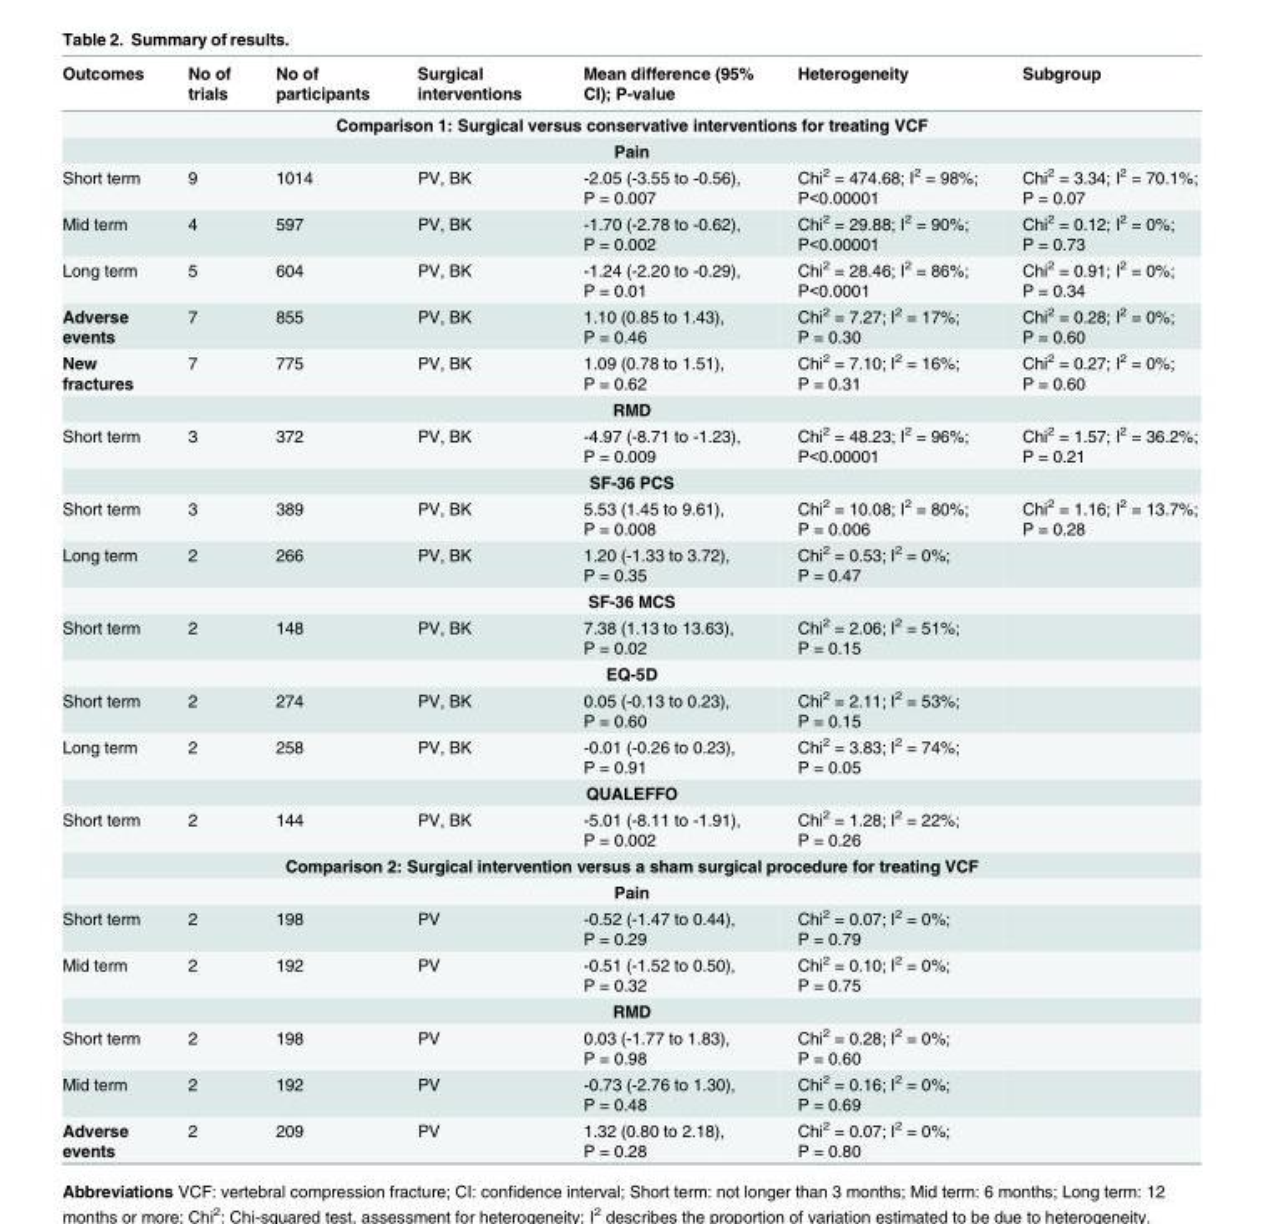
<table><thead><tr><td>Outcomes</td><td>No of trials</td><td>No of participants</td><td>Surgical interventions</td><td>Mean difference (95% CI); P-value</td><td>Heterogeneity</td><td>Subgroup</td></tr></thead><tbody><tr><td colspan="7">Comparison 1: Surgical versus conservative interventions for treating VCF</td></tr><tr><td colspan="7">Pain</td></tr><tr><td>Short term</td><td>9</td><td>1014</td><td>PV, BK</td><td>-2.05 (-3.55 to -0.56), P = 0.007</td><td>Chi<sup>2</sup> = 474.68; I<sup>2</sup> = 98%; P&lt;0.00001</td><td>Chi<sup>2</sup> = 3.34; I<sup>2</sup> = 70.1%; P = 0.07</td></tr><tr><td>Mid term</td><td>4</td><td>597</td><td>PV, BK</td><td>-1.70 (-2.78 to -0.62), P = 0.002</td><td>Chi<sup>2</sup> = 29.88; I<sup>2</sup> = 90%; P&lt;0.00001</td><td>Chi<sup>2</sup> = 0.12; I<sup>2</sup> = 0%; P = 0.73</td></tr><tr><td>Long term</td><td>5</td><td>604</td><td>PV, BK</td><td>-1.24 (-2.20 to -0.29), P = 0.01</td><td>Chi<sup>2</sup> = 28.46; I<sup>2</sup> = 86%; P&lt;0.0001</td><td>Chi<sup>2</sup> = 0.91; I<sup>2</sup> = 0%; P = 0.34</td></tr><tr><td>Adverse events</td><td>7</td><td>855</td><td>PV, BK</td><td>1.10 (0.85 to 1.43), P = 0.46</td><td>Chi<sup>2</sup> = 7.27; I<sup>2</sup> = 17%; P = 0.30</td><td>Chi<sup>2</sup> = 0.28; I<sup>2</sup> = 0%; P = 0.60</td></tr><tr><td>New fractures</td><td>7</td><td>775</td><td>PV, BK</td><td>1.09 (0.78 to 1.51), P = 0.62</td><td>Chi<sup>2</sup> = 7.10; I<sup>2</sup> = 16%; P = 0.31</td><td>Chi<sup>2</sup> = 0.27; I<sup>2</sup> = 0%; P = 0.60</td></tr><tr><td colspan="7">RMD</td></tr><tr><td>Short term</td><td>3</td><td>372</td><td>PV, BK</td><td>-4.97 (-8.71 to -1.23), P = 0.009</td><td>Chi<sup>2</sup> = 48.23; I<sup>2</sup> = 96%; P&lt;0.00001</td><td>Chi<sup>2</sup> = 1.57; I<sup>2</sup> = 36.2%; P = 0.21</td></tr><tr><td colspan="7">SF-36 PCS</td></tr><tr><td>Short term</td><td>3</td><td>389</td><td>PV, BK</td><td>5.53 (1.45 to 9.61), P = 0.008</td><td>Chi<sup>2</sup> = 10.08; I<sup>2</sup> = 80%; P = 0.006</td><td>Chi<sup>2</sup> = 1.16; I<sup>2</sup> = 13.7%; P = 0.28</td></tr><tr><td>Long term</td><td>2</td><td>266</td><td>PV, BK</td><td>1.20 (-1.33 to 3.72), P = 0.35</td><td>Chi<sup>2</sup> = 0.53; I<sup>2</sup> = 0%; P = 0.47</td><td></td></tr><tr><td colspan="7">SF-36 MCS</td></tr><tr><td>Short term</td><td>2</td><td>148</td><td>PV, BK</td><td>7.38 (1.13 to 13.63), P = 0.02</td><td>Chi<sup>2</sup> = 2.06; I<sup>2</sup> = 51%; P = 0.15</td><td></td></tr><tr><td colspan="7">EQ-5D</td></tr><tr><td>Short term</td><td>2</td><td>274</td><td>PV, BK</td><td>0.05 (-0.13 to 0.23), P = 0.60</td><td>Chi<sup>2</sup> = 2.11; I<sup>2</sup> = 53%; P = 0.15</td><td></td></tr><tr><td>Long term</td><td>2</td><td>258</td><td>PV, BK</td><td>-0.01 (-0.26 to 0.23), P = 0.91</td><td>Chi<sup>2</sup> = 3.83; I<sup>2</sup> = 74%; P = 0.05</td><td></td></tr><tr><td colspan="7">QUALEFFO</td></tr><tr><td>Short term</td><td>2</td><td>144</td><td>PV, BK</td><td>-5.01 (-8.11 to -1.91), P = 0.002</td><td>Chi<sup>2</sup> = 1.28; I<sup>2</sup> = 22%; P = 0.26</td><td></td></tr><tr><td colspan="7">Comparison 2: Surgical intervention versus a sham surgical procedure for treating VCF</td></tr><tr><td colspan="7">Pain</td></tr><tr><td>Short term</td><td>2</td><td>198</td><td>PV</td><td>-0.52 (-1.47 to 0.44), P = 0.29</td><td>Chi<sup>2</sup> = 0.07; I<sup>2</sup> = 0%; P = 0.79</td><td></td></tr><tr><td>Mid term</td><td>2</td><td>192</td><td>PV</td><td>-0.51 (-1.52 to 0.50), P = 0.32</td><td>Chi<sup>2</sup> = 0.10; I<sup>2</sup> = 0%; P = 0.75</td><td></td></tr><tr><td colspan="7">RMD</td></tr><tr><td>Short term</td><td>2</td><td>198</td><td>PV</td><td>0.03 (-1.77 to 1.83), P = 0.98</td><td>Chi<sup>2</sup> = 0.28; I<sup>2</sup> = 0%; P = 0.60</td><td></td></tr><tr><td>Mid term</td><td>2</td><td>192</td><td>PV</td><td>-0.73 (-2.76 to 1.30), P = 0.48</td><td>Chi<sup>2</sup> = 0.16; I<sup>2</sup> = 0%; P = 0.69</td><td></td></tr><tr><td>Adverse events</td><td>2</td><td>209</td><td>PV</td><td>1.32 (0.80 to 2.18), P = 0.28</td><td>Chi<sup>2</sup> = 0.07; I<sup>2</sup> = 0%; P = 0.80</td><td></td></tr></tbody></table>